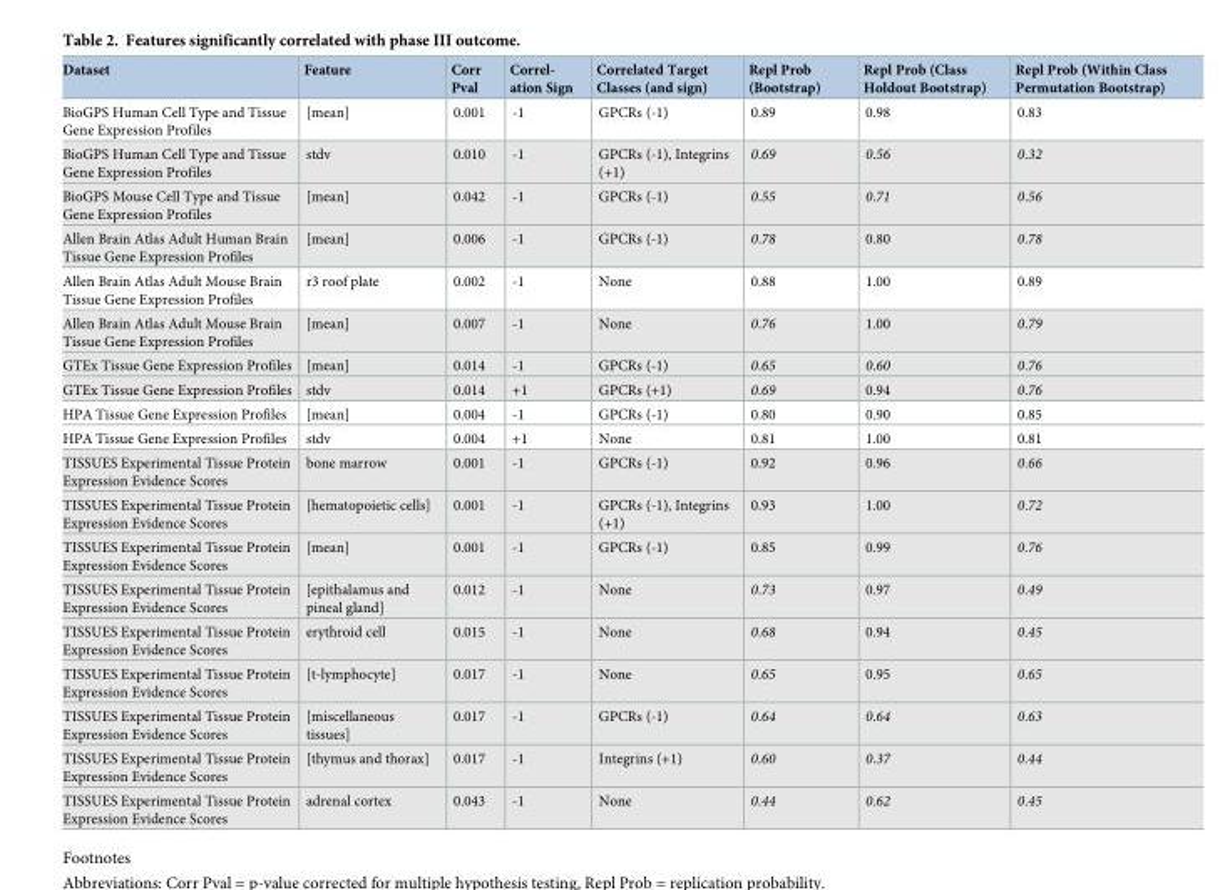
<table><thead><tr><td>Dataset</td><td>Feature</td><td>Corr Pval</td><td>Correl- ation Sign</td><td>Correlated Target Classes (and sign)</td><td>Repl Prob (Bootstrap)</td><td>Repl Prob (Class Holdout Bootstrap)</td><td>Repl Prob (Within Class Permutation Bootstrap)</td></tr></thead><tbody><tr><td>BioGPS Human Cell Type and Tissue Gene Expression Profiles</td><td>[mean]</td><td>0.001</td><td>-1</td><td>GPCRs (-1)</td><td>0.89</td><td>0.98</td><td>0.83</td></tr><tr><td>BioGPS Human Cell Type and Tissue Gene Expression Profiles</td><td>stdv</td><td>0.010</td><td>-1</td><td>GPCRs (-1), Integrins (+1)</td><td>0.69</td><td>0.56</td><td>0.32</td></tr><tr><td>BioGPS Mouse Cell Type and Tissue Gene Expression Profiles</td><td>[mean]</td><td>0.042</td><td>-1</td><td>GPCRs (-1)</td><td>0.55</td><td>0.71</td><td>0.56</td></tr><tr><td>Allen Brain Atlas Adult Human Brain Tissue Gene Expression Profiles</td><td>[mean]</td><td>0.006</td><td>-1</td><td>GPCRs (-1)</td><td>0.78</td><td>0.80</td><td>0.78</td></tr><tr><td>Allen Brain Atlas Adult Mouse Brain Tissue Gene Expression Profiles</td><td>r3 roof plate</td><td>0.002</td><td>-1</td><td>None</td><td>0.88</td><td>1.00</td><td>0.89</td></tr><tr><td>Allen Brain Atlas Adult Mouse Brain Tissue Gene Expression Profiles</td><td>[mean]</td><td>0.007</td><td>-1</td><td>None</td><td>0.76</td><td>1.00</td><td>0.79</td></tr><tr><td>GTEx Tissue Gene Expression Profiles</td><td>[mean]</td><td>0.014</td><td>-1</td><td>GPCRs (-1)</td><td>0.65</td><td>0.60</td><td>0.76</td></tr><tr><td>GTEx Tissue Gene Expression Profiles</td><td>stdv</td><td>0.014</td><td>+1</td><td>GPCRs (+1)</td><td>0.69</td><td>0.94</td><td>0.76</td></tr><tr><td>HPA Tissue Gene Expression Profiles</td><td>[mean]</td><td>0.004</td><td>-1</td><td>GPCRs (-1)</td><td>0.80</td><td>0.90</td><td>0.85</td></tr><tr><td>HPA Tissue Gene Expression Profiles</td><td>stdv</td><td>0.004</td><td>+1</td><td>None</td><td>0.81</td><td>1.00</td><td>0.81</td></tr><tr><td>TISSUES Experimental Tissue Protein Expression Evidence Scores</td><td>bone marrow</td><td>0.001</td><td>-1</td><td>GPCRs (-1)</td><td>0.92</td><td>0.96</td><td>0.66</td></tr><tr><td>TISSUES Experimental Tissue Protein Expression Evidence Scores</td><td>[hematopoietic cells]</td><td>0.001</td><td>-1</td><td>GPCRs (-1), Integrins (+1)</td><td>0.93</td><td>1.00</td><td>0.72</td></tr><tr><td>TISSUES Experimental Tissue Protein Expression Evidence Scores</td><td>[mean]</td><td>0.001</td><td>-1</td><td>GPCRs (-1)</td><td>0.85</td><td>0.99</td><td>0.76</td></tr><tr><td>TISSUES Experimental Tissue Protein Expression Evidence Scores</td><td>[epithalamus and pineal gland]</td><td>0.012</td><td>-1</td><td>None</td><td>0.73</td><td>0.97</td><td>0.49</td></tr><tr><td>TISSUES Experimental Tissue Protein Expression Evidence Scores</td><td>erythroid cell</td><td>0.015</td><td>-1</td><td>None</td><td>0.68</td><td>0.94</td><td>0.45</td></tr><tr><td>TISSUES Experimental Tissue Protein Expression Evidence Scores</td><td>[t-lymphocyte]</td><td>0.017</td><td>-1</td><td>None</td><td>0.65</td><td>0.95</td><td>0.65</td></tr><tr><td>TISSUES Experimental Tissue Protein Expression Evidence Scores</td><td>[miscellaneous tissues]</td><td>0.017</td><td>-1</td><td>GPCRs (-1)</td><td>0.64</td><td>0.64</td><td>0.63</td></tr><tr><td>TISSUES Experimental Tissue Protein Expression Evidence Scores</td><td>[thymus and thorax]</td><td>0.017</td><td>-1</td><td>Integrins (+1)</td><td>0.60</td><td>0.37</td><td>0.44</td></tr><tr><td>TISSUES Experimental Tissue Protein Expression Evidence Scores</td><td>adrenal cortex</td><td>0.043</td><td>-1</td><td>None</td><td>0.44</td><td>0.62</td><td>0.45</td></tr></tbody></table>